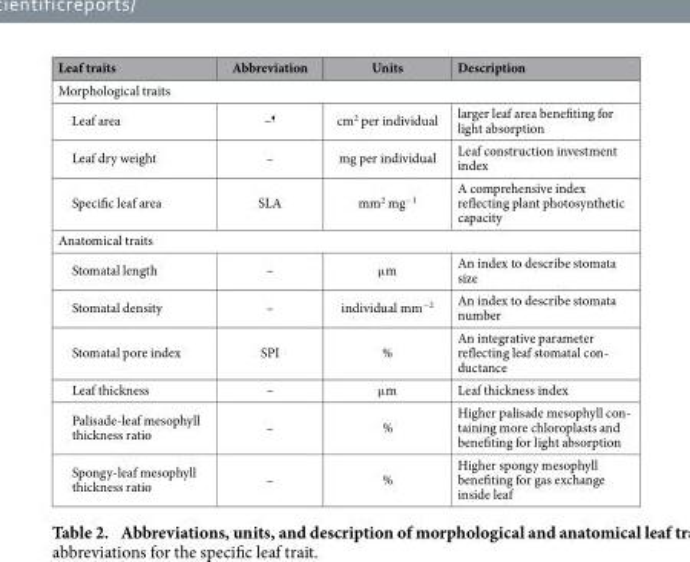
<table><thead><tr><td>Leaf traits</td><td>Abbreviation</td><td>Units</td><td>Description</td></tr></thead><tbody><tr><td colspan="4">Morphological traits</td></tr><tr><td>Leaf area</td><td>–¶</td><td>cm<sup>2</sup> per individual</td><td>larger leaf area benefiting for light absorption</td></tr><tr><td>Leaf dry weight</td><td>–</td><td>mg per individual</td><td>Leaf construction investment index</td></tr><tr><td>Specific leaf area</td><td>SLA</td><td>mm<sup>2</sup> mg<sup>−1</sup></td><td>A comprehensive index reflecting plant photosynthetic capacity</td></tr><tr><td colspan="4">Anatomical traits</td></tr><tr><td>Stomatal length</td><td>–</td><td>μ m</td><td>An index to describe stomata size</td></tr><tr><td>Stomatal density</td><td>–</td><td>individual mm<sup>−2</sup></td><td>An index to describe stomata number</td></tr><tr><td>Stomatal pore index</td><td>SPI</td><td>%</td><td>An integrative parameter reflecting leaf stomatal con- ductance</td></tr><tr><td>Leaf thickness</td><td>–</td><td>μ m</td><td>Leaf thickness index</td></tr><tr><td>Palisade-leaf mesophyll thickness ratio</td><td>–</td><td>%</td><td>Higher palisade mesophyll con- taining more chloroplasts and benefiting for light absorption</td></tr><tr><td>Spongy-leaf mesophyll thickness ratio</td><td>–</td><td>%</td><td>Higher spongy mesophyll benefiting for gas exchange inside leaf</td></tr></tbody></table>